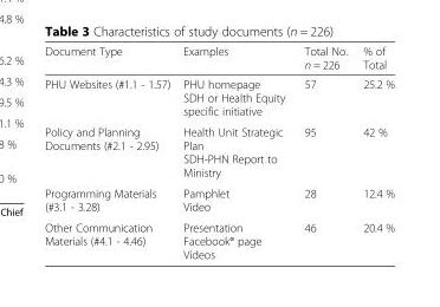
<table><thead><tr><td>Document Type</td><td>Examples</td><td>Total No. n = 226</td><td>% of Total</td></tr></thead><tbody><tr><td>PHU Websites (#1.1 - 1.57)</td><td>PHU homepage SDH or Health Equity specific initiative</td><td>57</td><td>25.2 %</td></tr><tr><td>Policy and Planning Documents (#2.1 - 2.95)</td><td>Health Unit Strategic Plan SDH-PHN Report to Ministry</td><td>95</td><td>42 %</td></tr><tr><td>Programming Materials (#3.1 - 3.28)</td><td>Pamphlet Video</td><td>28</td><td>12.4 %</td></tr><tr><td>Other Communication Materials (#4.1 - 4.46)</td><td>Presentation Facebook® page Videos</td><td>46</td><td>20.4 %</td></tr></tbody></table>